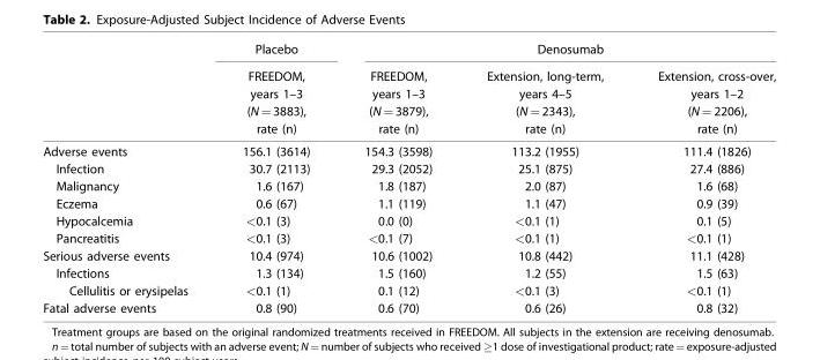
<table><thead><tr><td rowspan="2"></td><td rowspan="2">Placebo FREEDOM, years 1–3 (N = 3883), rate (n)</td><td colspan="3">Denosumab</td></tr><tr><td>FREEDOM, years 1–3 (N = 3879), rate (n)</td><td>Extension, long-term, years 4–5 (N = 2343), rate (n)</td><td>Extension, cross-over, years 1–2 (N = 2206), rate (n)</td></tr></thead><tbody><tr><td>Adverse events</td><td>156.1 (3614)</td><td>154.3 (3598)</td><td>113.2 (1955)</td><td>111.4 (1826)</td></tr><tr><td>Infection</td><td>30.7 (2113)</td><td>29.3 (2052)</td><td>25.1 (875)</td><td>27.4 (886)</td></tr><tr><td>Malignancy</td><td>1.6 (167)</td><td>1.8 (187)</td><td>2.0 (87)</td><td>1.6 (68)</td></tr><tr><td>Eczema</td><td>0.6 (67)</td><td>1.1 (119)</td><td>1.1 (47)</td><td>0.9 (39)</td></tr><tr><td>Hypocalcemia</td><td>&lt;0.1 (3)</td><td>0.0 (0)</td><td>&lt;0.1 (1)</td><td>0.1 (5)</td></tr><tr><td>Pancreatitis</td><td>&lt;0.1 (3)</td><td>&lt;0.1 (7)</td><td>&lt;0.1 (1)</td><td>&lt;0.1 (1)</td></tr><tr><td>Serious adverse events</td><td>10.4 (974)</td><td>10.6 (1002)</td><td>10.8 (442)</td><td>11.1 (428)</td></tr><tr><td>Infections</td><td>1.3 (134)</td><td>1.5 (160)</td><td>1.2 (55)</td><td>1.5 (63)</td></tr><tr><td>Cellulitis or erysipelas</td><td>&lt;0.1 (1)</td><td>0.1 (12)</td><td>&lt;0.1 (3)</td><td>&lt;0.1 (1)</td></tr><tr><td>Fatal adverse events</td><td>0.8 (90)</td><td>0.6 (70)</td><td>0.6 (26)</td><td>0.8 (32)</td></tr></tbody></table>